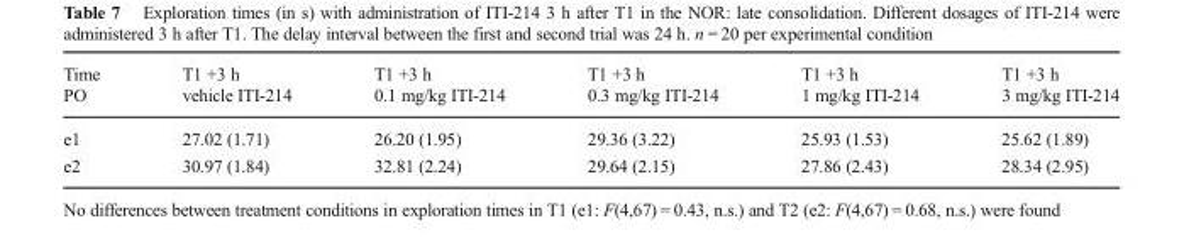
<table><thead><tr><td>Time PO</td><td>T1 +3 h vehicle ITI-214</td><td>T1 +3 h 0.1 mg/kg ITI-214</td><td>T1 +3 h 0.3 mg/kg ITI-214</td><td>T1 +3 h 1 mg/kg ITI-214</td><td>T1 +3 h 3 mg/kg ITI-214</td></tr></thead><tbody><tr><td>e1</td><td>27.02 (1.71)</td><td>26.20 (1.95)</td><td>29.36 (3.22)</td><td>25.93 (1.53)</td><td>25.62 (1.89)</td></tr><tr><td>e2</td><td>30.97 (1.84)</td><td>32.81 (2.24)</td><td>29.64 (2.15)</td><td>27.86 (2.43)</td><td>28.34 (2.95)</td></tr></tbody></table>